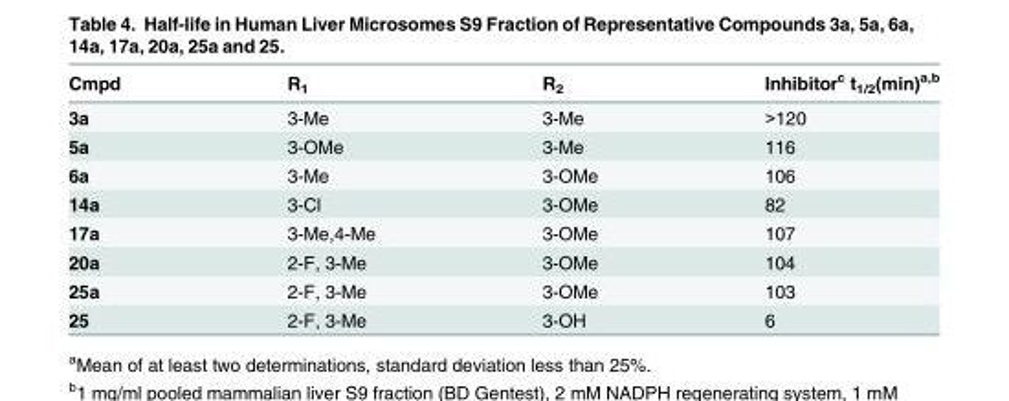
<table><thead><tr><td>Cmpd</td><td>R<sub>1</sub></td><td>R<sub>2</sub></td><td>Inhibitor<sup>c</sup> t<sub>1/2</sub>(min)<sup>a,b</sup></td></tr></thead><tbody><tr><td>3a</td><td>3-Me</td><td>3-Me</td><td>&gt;120</td></tr><tr><td>5a</td><td>3-OMe</td><td>3-Me</td><td>116</td></tr><tr><td>6a</td><td>3-Me</td><td>3-OMe</td><td>106</td></tr><tr><td>14a</td><td>3-Cl</td><td>3-OMe</td><td>82</td></tr><tr><td>17a</td><td>3-Me,4-Me</td><td>3-OMe</td><td>107</td></tr><tr><td>20a</td><td>2-F, 3-Me</td><td>3-OMe</td><td>104</td></tr><tr><td>25a</td><td>2-F, 3-Me</td><td>3-OMe</td><td>103</td></tr><tr><td>25</td><td>2-F, 3-Me</td><td>3-OH</td><td>6</td></tr></tbody></table>